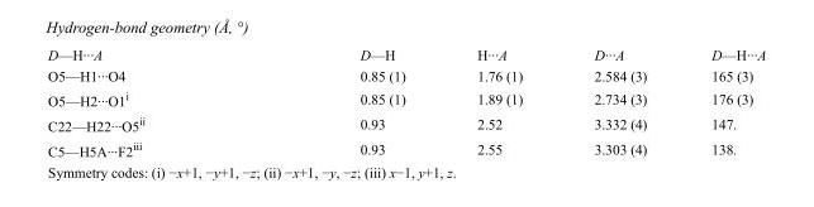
<table><tbody><tr><td>D—H···A</td><td>D—H</td><td>H···A</td><td>D···A</td><td>D—H···A</td></tr><tr><td>O5—H1···O4</td><td>0.85 (1)</td><td>1.76 (1)</td><td>2.584 (3)</td><td>165 (3)</td></tr><tr><td>O5—H2···O1<sup>i</sup></td><td>0.85 (1)</td><td>1.89 (1)</td><td>2.734 (3)</td><td>176 (3)</td></tr><tr><td>C22—H22···O5<sup>ii</sup></td><td>0.93</td><td>2.52</td><td>3.332 (4)</td><td>147.</td></tr><tr><td>C5—H5A···F2<sup>iii</sup></td><td>0.93</td><td>2.55</td><td>3.303 (4)</td><td>138.</td></tr></tbody></table>